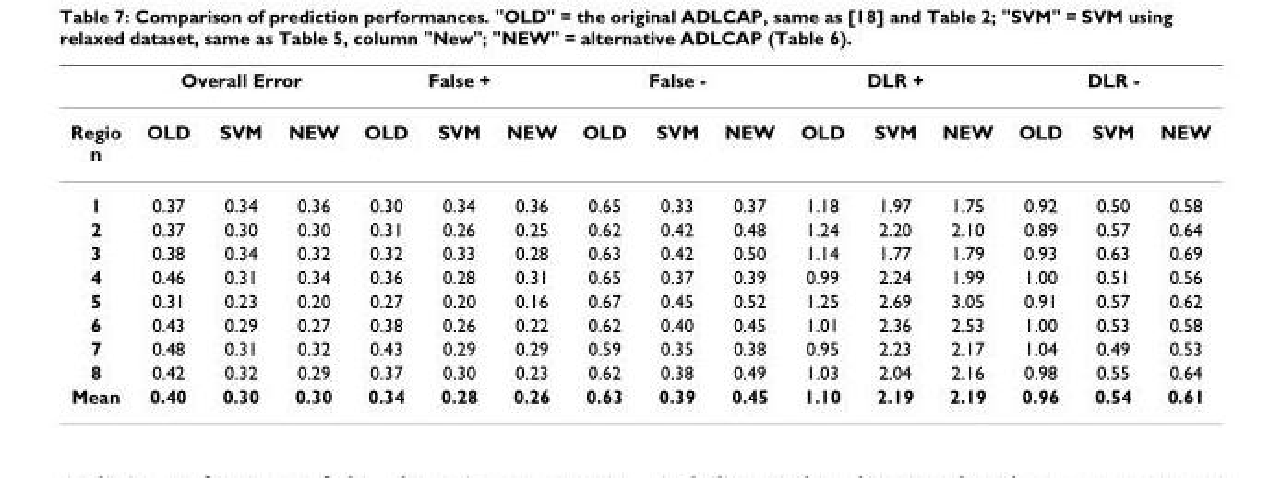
<table><thead><tr><td rowspan="2">Regio n</td><td colspan="3">Overall Error</td><td colspan="3">False +</td><td colspan="3">False -</td><td colspan="3">DLR +</td><td colspan="3">DLR -</td></tr><tr><td>OLD</td><td>SVM</td><td>NEW</td><td>OLD</td><td>SVM</td><td>NEW</td><td>OLD</td><td>SVM</td><td>NEW</td><td>OLD</td><td>SVM</td><td>NEW</td><td>OLD</td><td>SVM</td><td>NEW</td></tr></thead><tbody><tr><td>1</td><td>0.37</td><td>0.34</td><td>0.36</td><td>0.30</td><td>0.34</td><td>0.36</td><td>0.65</td><td>0.33</td><td>0.37</td><td>1.18</td><td>1.97</td><td>1.75</td><td>0.92</td><td>0.50</td><td>0.58</td></tr><tr><td>2</td><td>0.37</td><td>0.30</td><td>0.30</td><td>0.31</td><td>0.26</td><td>0.25</td><td>0.62</td><td>0.42</td><td>0.48</td><td>1.24</td><td>2.20</td><td>2.10</td><td>0.89</td><td>0.57</td><td>0.64</td></tr><tr><td>3</td><td>0.38</td><td>0.34</td><td>0.32</td><td>0.32</td><td>0.33</td><td>0.28</td><td>0.63</td><td>0.42</td><td>0.50</td><td>1.14</td><td>1.77</td><td>1.79</td><td>0.93</td><td>0.63</td><td>0.69</td></tr><tr><td>4</td><td>0.46</td><td>0.31</td><td>0.34</td><td>0.36</td><td>0.28</td><td>0.31</td><td>0.65</td><td>0.37</td><td>0.39</td><td>0.99</td><td>2.24</td><td>1.99</td><td>1.00</td><td>0.51</td><td>0.56</td></tr><tr><td>5</td><td>0.31</td><td>0.23</td><td>0.20</td><td>0.27</td><td>0.20</td><td>0.16</td><td>0.67</td><td>0.45</td><td>0.52</td><td>1.25</td><td>2.69</td><td>3.05</td><td>0.91</td><td>0.57</td><td>0.62</td></tr><tr><td>6</td><td>0.43</td><td>0.29</td><td>0.27</td><td>0.38</td><td>0.26</td><td>0.22</td><td>0.62</td><td>0.40</td><td>0.45</td><td>1.01</td><td>2.36</td><td>2.53</td><td>1.00</td><td>0.53</td><td>0.58</td></tr><tr><td>7</td><td>0.48</td><td>0.31</td><td>0.32</td><td>0.43</td><td>0.29</td><td>0.29</td><td>0.59</td><td>0.35</td><td>0.38</td><td>0.95</td><td>2.23</td><td>2.17</td><td>1.04</td><td>0.49</td><td>0.53</td></tr><tr><td>8</td><td>0.42</td><td>0.32</td><td>0.29</td><td>0.37</td><td>0.30</td><td>0.23</td><td>0.62</td><td>0.38</td><td>0.49</td><td>1.03</td><td>2.04</td><td>2.16</td><td>0.98</td><td>0.55</td><td>0.64</td></tr><tr><td>Mean</td><td>0.40</td><td>0.30</td><td>0.30</td><td>0.34</td><td>0.28</td><td>0.26</td><td>0.63</td><td>0.39</td><td>0.45</td><td>1.10</td><td>2.19</td><td>2.19</td><td>0.96</td><td>0.54</td><td>0.61</td></tr></tbody></table>